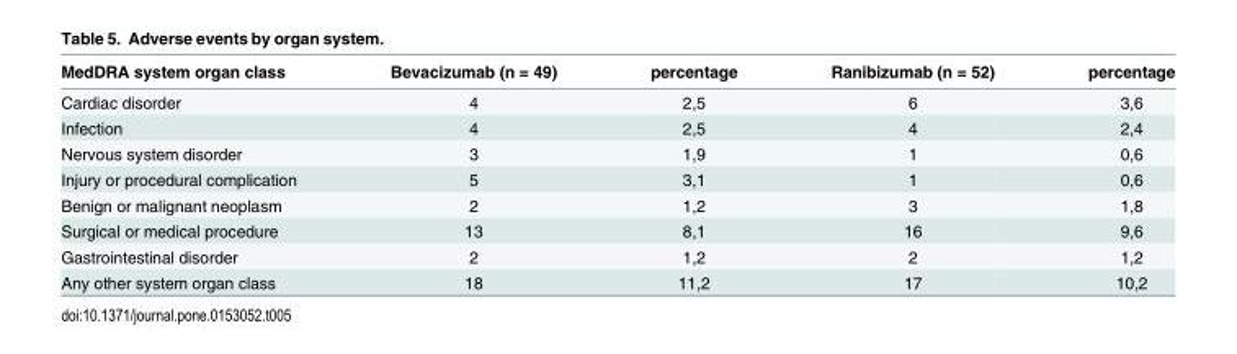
<table><thead><tr><td>MedDRA system organ class</td><td>Bevacizumab (n = 49)</td><td>percentage</td><td>Ranibizumab (n = 52)</td><td>percentage</td></tr></thead><tbody><tr><td>Cardiac disorder</td><td>4</td><td>2,5</td><td>6</td><td>3,6</td></tr><tr><td>Infection</td><td>4</td><td>2,5</td><td>4</td><td>2,4</td></tr><tr><td>Nervous system disorder</td><td>3</td><td>1,9</td><td>1</td><td>0,6</td></tr><tr><td>Injury or procedural complication</td><td>5</td><td>3,1</td><td>1</td><td>0,6</td></tr><tr><td>Benign or malignant neoplasm</td><td>2</td><td>1,2</td><td>3</td><td>1,8</td></tr><tr><td>Surgical or medical procedure</td><td>13</td><td>8,1</td><td>16</td><td>9,6</td></tr><tr><td>Gastrointestinal disorder</td><td>2</td><td>1,2</td><td>2</td><td>1,2</td></tr><tr><td>Any other system organ class</td><td>18</td><td>11,2</td><td>17</td><td>10,2</td></tr></tbody></table>